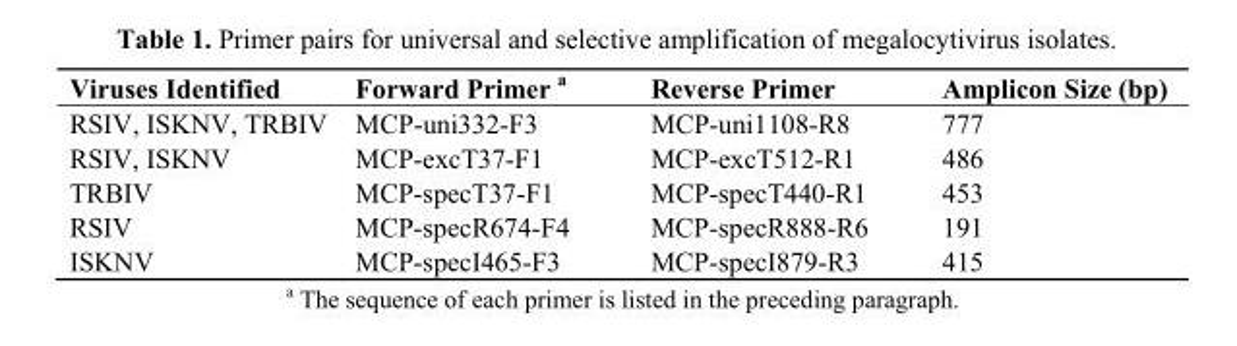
<table><thead><tr><td>Viruses Identified</td><td>Forward Primer <sup>a</sup></td><td>Reverse Primer</td><td>Amplicon Size (bp)</td></tr></thead><tbody><tr><td>RSIV, ISKNV, TRBIV</td><td>MCP-uni332-F3</td><td>MCP-uni1108-R8</td><td>777</td></tr><tr><td>RSIV, ISKNV</td><td>MCP-excT37-F1</td><td>MCP-excT512-R1</td><td>486</td></tr><tr><td>TRBIV</td><td>MCP-specT37-F1</td><td>MCP-specT440-R1</td><td>453</td></tr><tr><td>RSIV</td><td>MCP-specR674-F4</td><td>MCP-specR888-R6</td><td>191</td></tr><tr><td>ISKNV</td><td>MCP-specI465-F3</td><td>MCP-specI879-R3</td><td>415</td></tr></tbody></table>